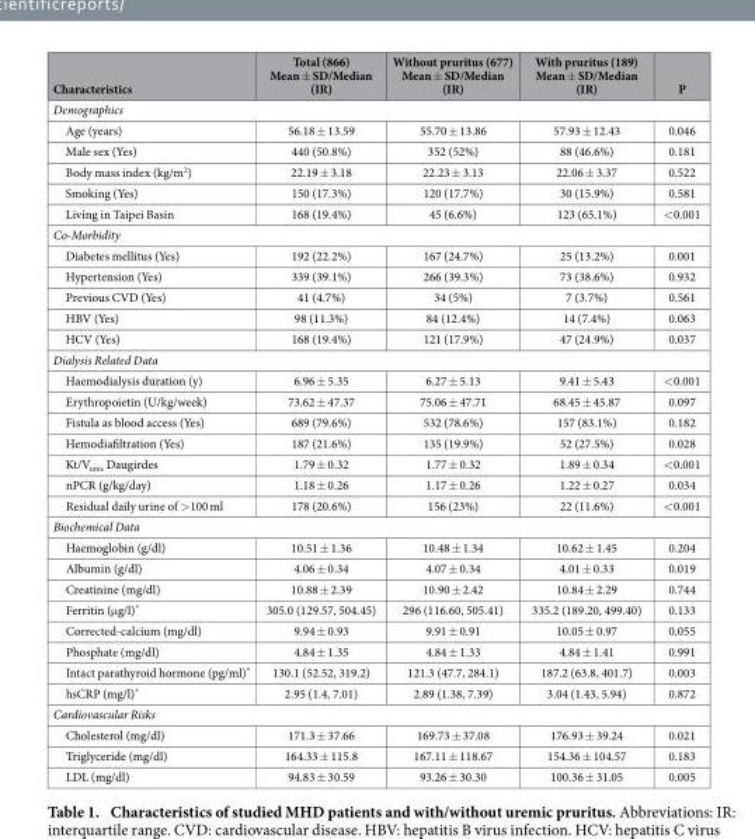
<table><thead><tr><td>Characteristics</td><td>Total (866) Mean ± SD/Median (IR)</td><td>Without pruritus (677) Mean ± SD/Median (IR)</td><td>With pruritus (189) Mean ± SD/Median (IR)</td><td>P</td></tr></thead><tbody><tr><td colspan="5">Demographics</td></tr><tr><td>Age (years)</td><td>56.18 ± 13.59</td><td>55.70 ± 13.86</td><td>57.93 ± 12.43</td><td>0.046</td></tr><tr><td>Male sex (Yes)</td><td>440 (50.8%)</td><td>352 (52%)</td><td>88 (46.6%)</td><td>0.181</td></tr><tr><td>Body mass index (kg/m<sup>2</sup>)</td><td>22.19 ± 3.18</td><td>22.23 ± 3.13</td><td>22.06 ± 3.37</td><td>0.522</td></tr><tr><td>Smoking (Yes)</td><td>150 (17.3%)</td><td>120 (17.7%)</td><td>30 (15.9%)</td><td>0.581</td></tr><tr><td>Living in Taipei Basin</td><td>168 (19.4%)</td><td>45 (6.6%)</td><td>123 (65.1%)</td><td>&lt; 0.001</td></tr><tr><td colspan="5">Co-Morbidity</td></tr><tr><td>Diabetes mellitus (Yes)</td><td>192 (22.2%)</td><td>167 (24.7%)</td><td>25 (13.2%)</td><td>0.001</td></tr><tr><td>Hypertension (Yes)</td><td>339 (39.1%)</td><td>266 (39.3%)</td><td>73 (38.6%)</td><td>0.932</td></tr><tr><td>Previous CVD (Yes)</td><td>41 (4.7%)</td><td>34 (5%)</td><td>7 (3.7%)</td><td>0.561</td></tr><tr><td>HBV (Yes)</td><td>98 (11.3%)</td><td>84 (12.4%)</td><td>14 (7.4%)</td><td>0.063</td></tr><tr><td>HCV (Yes)</td><td>168 (19.4%)</td><td>121 (17.9%)</td><td>47 (24.9%)</td><td>0.037</td></tr><tr><td colspan="5">Dialysis Related Data</td></tr><tr><td>Haemodialysis duration (y)</td><td>6.96 ± 5.35</td><td>6.27 ± 5.13</td><td>9.41 ± 5.43</td><td>&lt; 0.001</td></tr><tr><td>Erythropoietin (U/kg/week)</td><td>73.62 ± 47.37</td><td>75.06 ± 47.71</td><td>68.45 ± 45.87</td><td>0.097</td></tr><tr><td>Fistula as blood access (Yes)</td><td>689 (79.6%)</td><td>532 (78.6%)</td><td>157 (83.1%)</td><td>0.182</td></tr><tr><td>Hemodiafiltration (Yes)</td><td>187 (21.6%)</td><td>135 (19.9%)</td><td>52 (27.5%)</td><td>0.028</td></tr><tr><td>Kt/V<sub>urea</sub> Daugirdes</td><td>1.79 ± 0.32</td><td>1.77 ± 0.32</td><td>1.89 ± 0.34</td><td>&lt; 0.001</td></tr><tr><td>nPCR (g/kg/day)</td><td>1.18 ± 0.26</td><td>1.17 ± 0.26</td><td>1.22 ± 0.27</td><td>0.034</td></tr><tr><td>Residual daily urine of &gt; 100 ml</td><td>178 (20.6%)</td><td>156 (23%)</td><td>22 (11.6%)</td><td>&lt; 0.001</td></tr><tr><td colspan="5">Biochemical Data</td></tr><tr><td>Haemoglobin (g/dl)</td><td>10.51 ± 1.36</td><td>10.48 ± 1.34</td><td>10.62 ± 1.45</td><td>0.204</td></tr><tr><td>Albumin (g/dl)</td><td>4.06 ± 0.34</td><td>4.07 ± 0.34</td><td>4.01 ± 0.33</td><td>0.019</td></tr><tr><td>Creatinine (mg/dl)</td><td>10.88 ± 2.39</td><td>10.90 ± 2.42</td><td>10.84 ± 2.29</td><td>0.744</td></tr><tr><td>Ferritin (μ g/l)*</td><td>305.0 (129.57, 504.45)</td><td>296 (116.60, 505.41)</td><td>335.2 (189.20, 499.40)</td><td>0.133</td></tr><tr><td>Corrected-calcium (mg/dl)</td><td>9.94 ± 0.93</td><td>9.91 ± 0.91</td><td>10.05 ± 0.97</td><td>0.055</td></tr><tr><td>Phosphate (mg/dl)</td><td>4.84 ± 1.35</td><td>4.84 ± 1.33</td><td>4.84 ± 1.41</td><td>0.991</td></tr><tr><td>Intact parathyroid hormone (pg/ml)*</td><td>130.1 (52.52, 319.2)</td><td>121.3 (47.7, 284.1)</td><td>187.2 (63.8, 401.7)</td><td>0.003</td></tr><tr><td>hsCRP (mg/l)*</td><td>2.95 (1.4, 7.01)</td><td>2.89 (1.38, 7.39)</td><td>3.04 (1.43, 5.94)</td><td>0.872</td></tr><tr><td colspan="5">Cardiovascular Risks</td></tr><tr><td>Cholesterol (mg/dl)</td><td>171.3 ± 37.66</td><td>169.73 ± 37.08</td><td>176.93 ± 39.24</td><td>0.021</td></tr><tr><td>Triglyceride (mg/dl)</td><td>164.33 ± 115.8</td><td>167.11 ± 118.67</td><td>154.36 ± 104.57</td><td>0.183</td></tr><tr><td>LDL (mg/dl)</td><td>94.83 ± 30.59</td><td>93.26 ± 30.30</td><td>100.36 ± 31.05</td><td>0.005</td></tr></tbody></table>